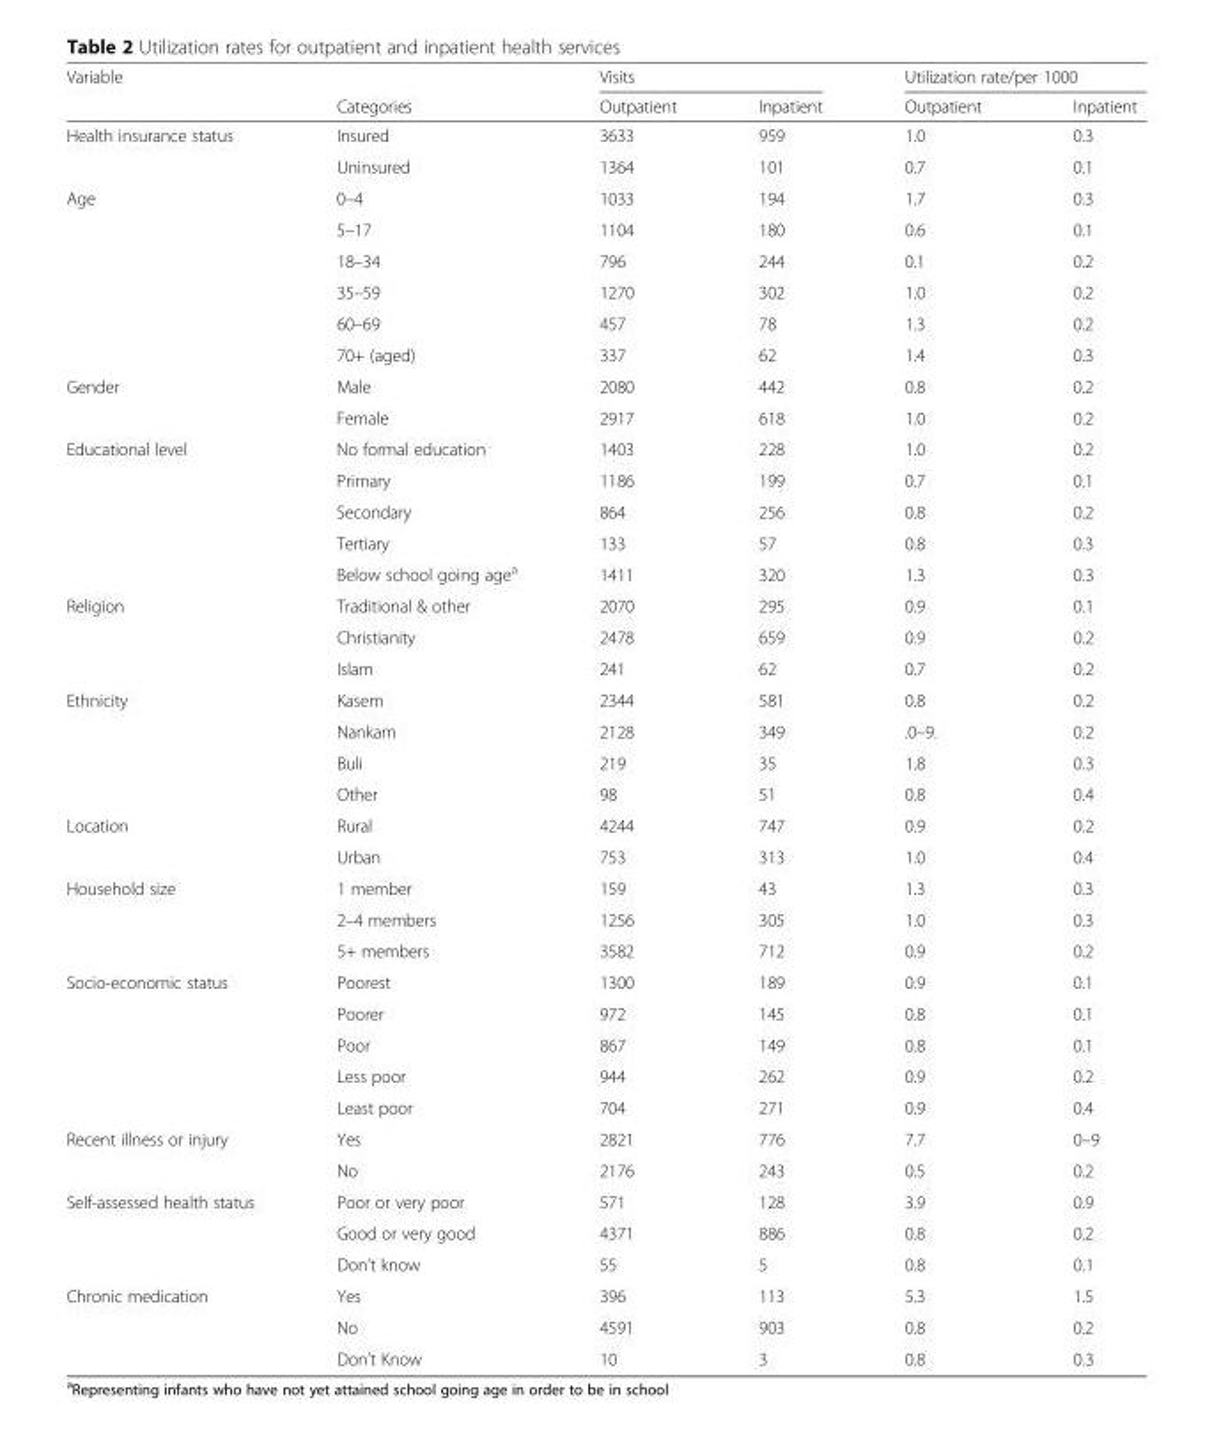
<table><thead><tr><td rowspan="2">Variable</td><td rowspan="2">Categories</td><td colspan="2">Visits</td><td colspan="2">Utilization rate/per 1000</td></tr><tr><td>Outpatient</td><td>Inpatient</td><td>Outpatient</td><td>Inpatient</td></tr></thead><tbody><tr><td rowspan="2">Health insurance status</td><td>Insured</td><td>3633</td><td>959</td><td>1.0</td><td>0.3</td></tr><tr><td>Uninsured</td><td>1364</td><td>101</td><td>0.7</td><td>0.1</td></tr><tr><td rowspan="6">Age</td><td>0–4</td><td>1033</td><td>194</td><td>1.7</td><td>0.3</td></tr><tr><td>5–17</td><td>1104</td><td>180</td><td>0.6</td><td>0.1</td></tr><tr><td>18–34</td><td>796</td><td>244</td><td>0.1</td><td>0.2</td></tr><tr><td>35–59</td><td>1270</td><td>302</td><td>1.0</td><td>0.2</td></tr><tr><td>60–69</td><td>457</td><td>78</td><td>1.3</td><td>0.2</td></tr><tr><td>70+ (aged)</td><td>337</td><td>62</td><td>1.4</td><td>0.3</td></tr><tr><td rowspan="2">Gender</td><td>Male</td><td>2080</td><td>442</td><td>0.8</td><td>0.2</td></tr><tr><td>Female</td><td>2917</td><td>618</td><td>1.0</td><td>0.2</td></tr><tr><td rowspan="5">Educational level</td><td>No formal education</td><td>1403</td><td>228</td><td>1.0</td><td>0.2</td></tr><tr><td>Primary</td><td>1186</td><td>199</td><td>0.7</td><td>0.1</td></tr><tr><td>Secondary</td><td>864</td><td>256</td><td>0.8</td><td>0.2</td></tr><tr><td>Tertiary</td><td>133</td><td>57</td><td>0.8</td><td>0.3</td></tr><tr><td>Below school going age<sup>a</sup></td><td>1411</td><td>320</td><td>1.3</td><td>0.3</td></tr><tr><td rowspan="3">Religion</td><td>Traditional &amp; other</td><td>2070</td><td>295</td><td>0.9</td><td>0.1</td></tr><tr><td>Christianity</td><td>2478</td><td>659</td><td>0.9</td><td>0.2</td></tr><tr><td>Islam</td><td>241</td><td>62</td><td>0.7</td><td>0.2</td></tr><tr><td rowspan="4">Ethnicity</td><td>Kasem</td><td>2344</td><td>581</td><td>0.8</td><td>0.2</td></tr><tr><td>Nankam</td><td>2128</td><td>349</td><td>.0–9.</td><td>0.2</td></tr><tr><td>Buli</td><td>219</td><td>35</td><td>1.8</td><td>0.3</td></tr><tr><td>Other</td><td>98</td><td>51</td><td>0.8</td><td>0.4</td></tr><tr><td rowspan="2">Location</td><td>Rural</td><td>4244</td><td>747</td><td>0.9</td><td>0.2</td></tr><tr><td>Urban</td><td>753</td><td>313</td><td>1.0</td><td>0.4</td></tr><tr><td rowspan="3">Household size</td><td>1 member</td><td>159</td><td>43</td><td>1.3</td><td>0.3</td></tr><tr><td>2–4 members</td><td>1256</td><td>305</td><td>1.0</td><td>0.3</td></tr><tr><td>5+ members</td><td>3582</td><td>712</td><td>0.9</td><td>0.2</td></tr><tr><td rowspan="5">Socio-economic status</td><td>Poorest</td><td>1300</td><td>189</td><td>0.9</td><td>0.1</td></tr><tr><td>Poorer</td><td>972</td><td>145</td><td>0.8</td><td>0.1</td></tr><tr><td>Poor</td><td>867</td><td>149</td><td>0.8</td><td>0.1</td></tr><tr><td>Less poor</td><td>944</td><td>262</td><td>0.9</td><td>0.2</td></tr><tr><td>Least poor</td><td>704</td><td>271</td><td>0.9</td><td>0.4</td></tr><tr><td rowspan="2">Recent illness or injury</td><td>Yes</td><td>2821</td><td>776</td><td>7.7</td><td>0–9</td></tr><tr><td>No</td><td>2176</td><td>243</td><td>0.5</td><td>0.2</td></tr><tr><td rowspan="3">Self-assessed health status</td><td>Poor or very poor</td><td>571</td><td>128</td><td>3.9</td><td>0.9</td></tr><tr><td>Good or very good</td><td>4371</td><td>886</td><td>0.8</td><td>0.2</td></tr><tr><td>Don’t know</td><td>55</td><td>5</td><td>0.8</td><td>0.1</td></tr><tr><td rowspan="3">Chronic medication</td><td>Yes</td><td>396</td><td>113</td><td>5.3</td><td>1.5</td></tr><tr><td>No</td><td>4591</td><td>903</td><td>0.8</td><td>0.2</td></tr><tr><td>Don’t Know</td><td>10</td><td>3</td><td>0.8</td><td>0.3</td></tr></tbody></table>